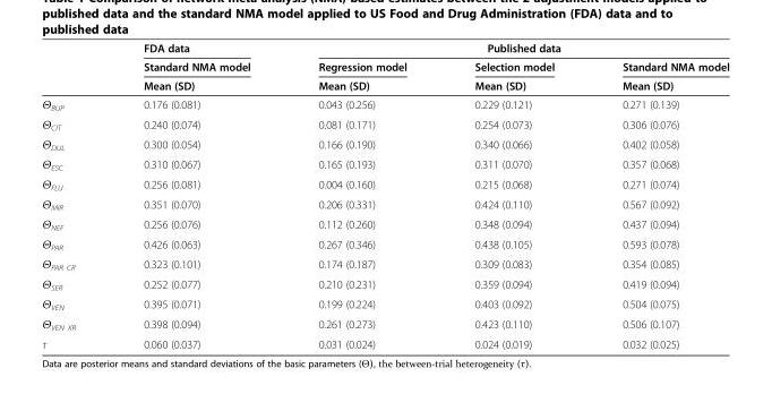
<table><thead><tr><td rowspan="3"></td><td rowspan="3">FDA data Standard NMA model Mean (SD)</td><td colspan="3">Published data</td></tr><tr><td rowspan="2">Regression model Mean (SD)</td><td rowspan="2">Selection model Mean (SD)</td><td rowspan="2">Standard NMA model Mean (SD)</td></tr><tr></tr></thead><tbody><tr><td>Θ<sub>BUP</sub></td><td>0.176 (0.081)</td><td>0.043 (0.256)</td><td>0.229 (0.121)</td><td>0.271 (0.139)</td></tr><tr><td>Θ<sub>CIT</sub></td><td>0.240 (0.074)</td><td>0.081 (0.171)</td><td>0.254 (0.073)</td><td>0.306 (0.076)</td></tr><tr><td>Θ<sub>DUL</sub></td><td>0.300 (0.054)</td><td>0.166 (0.190)</td><td>0.340 (0.066)</td><td>0.402 (0.058)</td></tr><tr><td>Θ<sub>ESC</sub></td><td>0.310 (0.067)</td><td>0.165 (0.193)</td><td>0.311 (0.070)</td><td>0.357 (0.068)</td></tr><tr><td>Θ<sub>FLU</sub></td><td>0.256 (0.081)</td><td>0.004 (0.160)</td><td>0.215 (0.068)</td><td>0.271 (0.074)</td></tr><tr><td>Θ<sub>MIR</sub></td><td>0.351 (0.070)</td><td>0.206 (0.331)</td><td>0.424 (0.110)</td><td>0.567 (0.092)</td></tr><tr><td>Θ<sub>NEF</sub></td><td>0.256 (0.076)</td><td>0.112 (0.260)</td><td>0.348 (0.094)</td><td>0.437 (0.094)</td></tr><tr><td>Θ<sub>PAR</sub></td><td>0.426 (0.063)</td><td>0.267 (0.346)</td><td>0.438 (0.105)</td><td>0.593 (0.078)</td></tr><tr><td>Θ<sub>PAR CR</sub></td><td>0.323 (0.101)</td><td>0.174 (0.187)</td><td>0.309 (0.083)</td><td>0.354 (0.085)</td></tr><tr><td>Θ<sub>SER</sub></td><td>0.252 (0.077)</td><td>0.210 (0.231)</td><td>0.359 (0.094)</td><td>0.419 (0.094)</td></tr><tr><td>Θ<sub>VEN</sub></td><td>0.395 (0.071)</td><td>0.199 (0.224)</td><td>0.403 (0.092)</td><td>0.504 (0.075)</td></tr><tr><td>Θ<sub>VEN XR</sub></td><td>0.398 (0.094)</td><td>0.261 (0.273)</td><td>0.423 (0.110)</td><td>0.506 (0.107)</td></tr><tr><td>τ</td><td>0.060 (0.037)</td><td>0.031 (0.024)</td><td>0.024 (0.019)</td><td>0.032 (0.025)</td></tr></tbody></table>